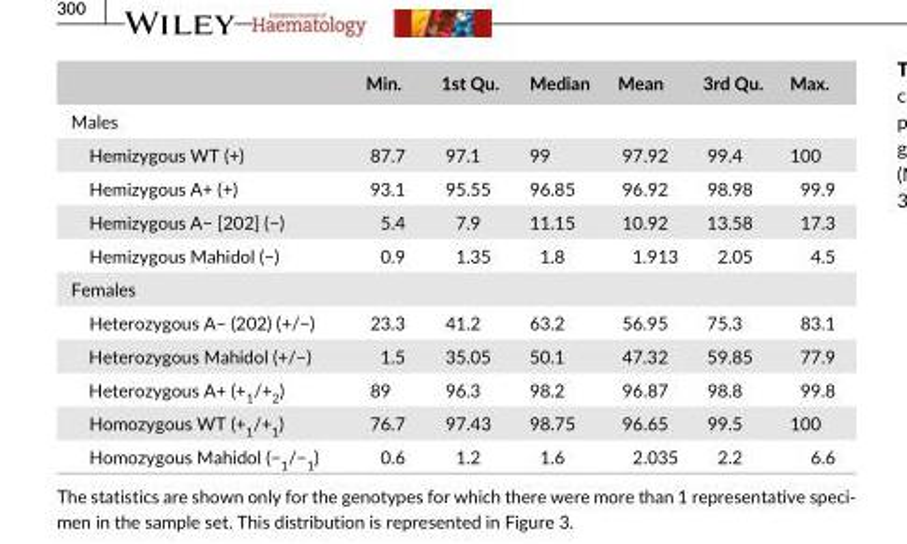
<table><thead><tr><td></td><td>Min.</td><td>1st Qu.</td><td>Median</td><td>Mean</td><td>3rd Qu.</td><td>Max.</td></tr></thead><tbody><tr><td colspan="7">Males</td></tr><tr><td>Hemizygous WT (+)</td><td>87.7</td><td>97.1</td><td>99</td><td>97.92</td><td>99.4</td><td>100</td></tr><tr><td>Hemizygous A+ (+)</td><td>93.1</td><td>95.55</td><td>96.85</td><td>96.92</td><td>98.98</td><td>99.9</td></tr><tr><td>Hemizygous A− [202] (−)</td><td>5.4</td><td>7.9</td><td>11.15</td><td>10.92</td><td>13.58</td><td>17.3</td></tr><tr><td>Hemizygous Mahidol (−)</td><td>0.9</td><td>1.35</td><td>1.8</td><td>1.913</td><td>2.05</td><td>4.5</td></tr><tr><td colspan="7">Females</td></tr><tr><td>Heterozygous A− (202) (+/−)</td><td>23.3</td><td>41.2</td><td>63.2</td><td>56.95</td><td>75.3</td><td>83.1</td></tr><tr><td>Heterozygous Mahidol (+/−)</td><td>1.5</td><td>35.05</td><td>50.1</td><td>47.32</td><td>59.85</td><td>77.9</td></tr><tr><td>Heterozygous A+ (+<sub>1</sub>/+<sub>2</sub>)</td><td>89</td><td>96.3</td><td>98.2</td><td>96.87</td><td>98.8</td><td>99.8</td></tr><tr><td>Homozygous WT (+<sub>1</sub>/+<sub>1</sub>)</td><td>76.7</td><td>97.43</td><td>98.75</td><td>96.65</td><td>99.5</td><td>100</td></tr><tr><td>Homozygous Mahidol (−<sub>1</sub>/−<sub>1</sub>)</td><td>0.6</td><td>1.2</td><td>1.6</td><td>2.035</td><td>2.2</td><td>6.6</td></tr></tbody></table>